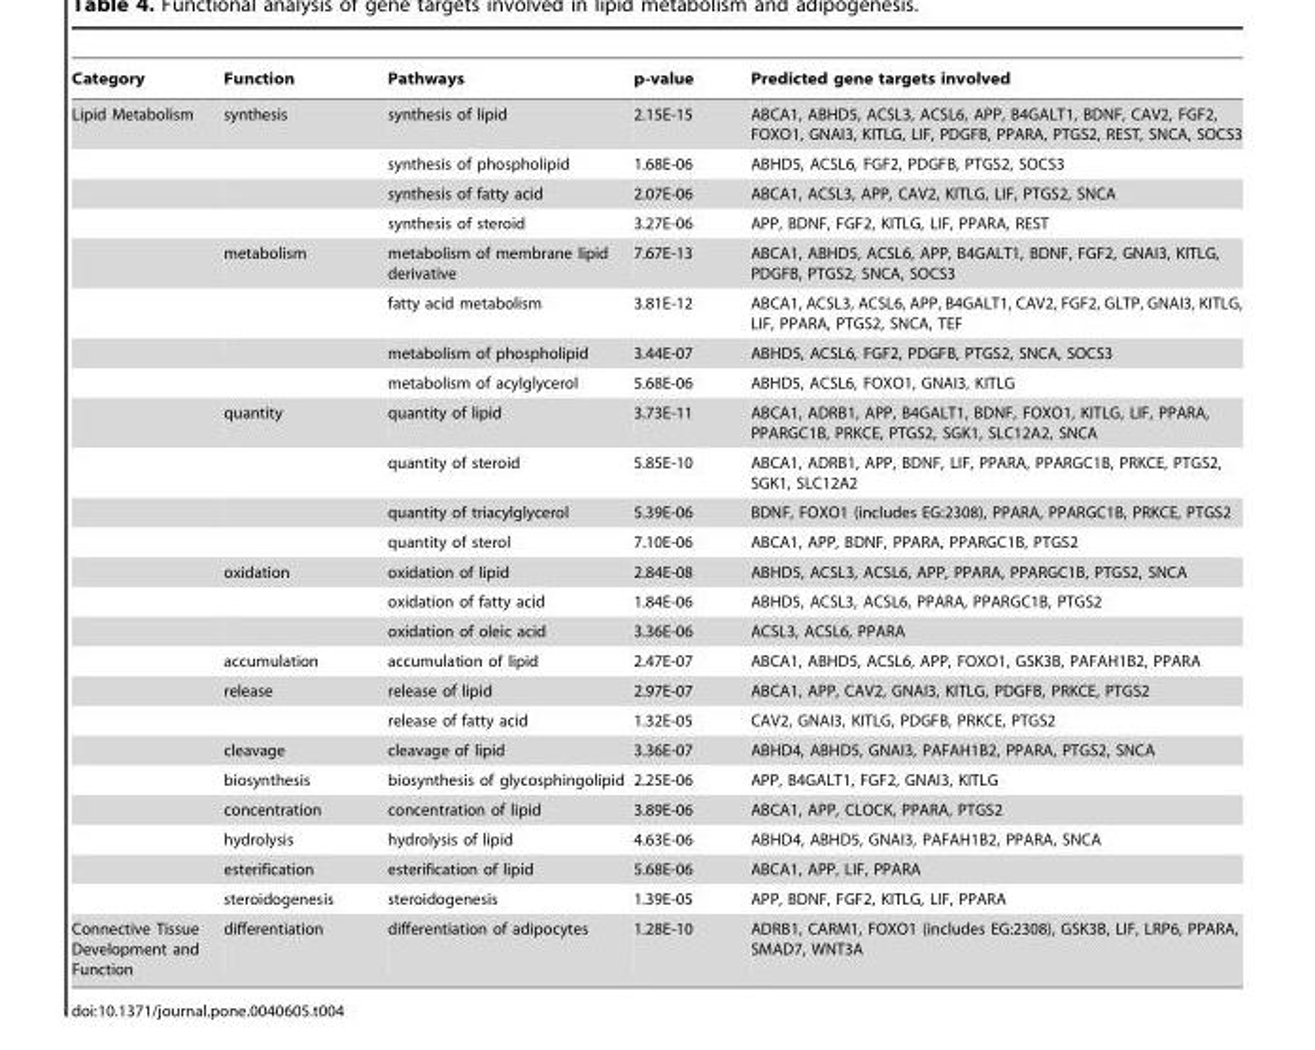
<table><thead><tr><td>Category</td><td>Function</td><td>Pathways</td><td>p-value</td><td>Predicted gene targets involved</td></tr></thead><tbody><tr><td rowspan="24">Lipid Metabolism</td><td>synthesis</td><td>synthesis of lipid</td><td>2.15E-15</td><td>ABCA1, ABHD5, ACSL3, ACSL6, APP, B4GALT1, BDNF, CAV2, FGF2, FOXO1, GNAI3, KITLG, LIF, PDGFB, PPARA, PTGS2, REST, SNCA, SOCS3</td></tr><tr><td></td><td>synthesis of phospholipid</td><td>1.68E-06</td><td>ABHD5, ACSL6, FGF2, PDGFB, PTGS2, SOCS3</td></tr><tr><td></td><td>synthesis of fatty acid</td><td>2.07E-06</td><td>ABCA1, ACSL3, APP, CAV2, KITLG, LIF, PTGS2, SNCA</td></tr><tr><td></td><td>synthesis of steroid</td><td>3.27E-06</td><td>APP, BDNF, FGF2, KITLG, LIF, PPARA, REST</td></tr><tr><td>metabolism</td><td>metabolism of membrane lipid derivative</td><td>7.67E-13</td><td>ABCA1, ABHD5, ACSL6, APP, B4GALT1, BDNF, FGF2, GNAI3, KITLG, PDGFB, PTGS2, SNCA, SOCS3</td></tr><tr><td></td><td>fatty acid metabolism</td><td>3.81E-12</td><td>ABCA1, ACSL3, ACSL6, APP, B4GALT1, CAV2, FGF2, GLTP, GNAI3, KITLG, LIF, PPARA, PTGS2, SNCA, TEF</td></tr><tr><td></td><td>metabolism of phospholipid</td><td>3.44E-07</td><td>ABHD5, ACSL6, FGF2, PDGFB, PTGS2, SNCA, SOCS3</td></tr><tr><td></td><td>metabolism of acylglycerol</td><td>5.68E-06</td><td>ABHD5, ACSL6, FOXO1, GNAI3, KITLG</td></tr><tr><td>quantity</td><td>quantity of lipid</td><td>3.73E-11</td><td>ABCA1, ADRB1, APP, B4GALT1, BDNF, FOXO1, KITLG, LIF, PPARA, PPARGC1B, PRKCE, PTGS2, SGK1, SLC12A2, SNCA</td></tr><tr><td></td><td>quantity of steroid</td><td>5.85E-10</td><td>ABCA1, ADRB1, APP, BDNF, LIF, PPARA, PPARGC1B, PRKCE, PTGS2, SGK1, SLC12A2</td></tr><tr><td></td><td>quantity of triacylglycerol</td><td>5.39E-06</td><td>BDNF, FOXO1 (includes EG:2308), PPARA, PPARGC1B, PRKCE, PTGS2</td></tr><tr><td></td><td>quantity of sterol</td><td>7.10E-06</td><td>ABCA1, APP, BDNF, PPARA, PPARGC1B, PTGS2</td></tr><tr><td>oxidation</td><td>oxidation of lipid</td><td>2.84E-08</td><td>ABHD5, ACSL3, ACSL6, APP, PPARA, PPARGC1B, PTGS2, SNCA</td></tr><tr><td></td><td>oxidation of fatty acid</td><td>1.84E-06</td><td>ABHD5, ACSL3, ACSL6, PPARA, PPARGC1B, PTGS2</td></tr><tr><td></td><td>oxidation of oleic acid</td><td>3.36E-06</td><td>ACSL3, ACSL6, PPARA</td></tr><tr><td>accumulation</td><td>accumulation of lipid</td><td>2.47E-07</td><td>ABCA1, ABHD5, ACSL6, APP, FOXO1, GSK3B, PAFAH1B2, PPARA</td></tr><tr><td>release</td><td>release of lipid</td><td>2.97E-07</td><td>ABCA1, APP, CAV2, GNAI3, KITLG, PDGFB, PRKCE, PTGS2</td></tr><tr><td></td><td>release of fatty acid</td><td>1.32E-05</td><td>CAV2, GNAI3, KITLG, PDGFB, PRKCE, PTGS2</td></tr><tr><td>cleavage</td><td>cleavage of lipid</td><td>3.36E-07</td><td>ABHD4, ABHD5, GNAI3, PAFAH1B2, PPARA, PTGS2, SNCA</td></tr><tr><td>biosynthesis</td><td>biosynthesis of glycosphingolipid</td><td>2.25E-06</td><td>APP, B4GALT1, FGF2, GNAI3, KITLG</td></tr><tr><td>concentration</td><td>concentration of lipid</td><td>3.89E-06</td><td>ABCA1, APP, CLOCK, PPARA, PTGS2</td></tr><tr><td>hydrolysis</td><td>hydrolysis of lipid</td><td>4.63E-06</td><td>ABHD4, ABHD5, GNAI3, PAFAH1B2, PPARA, SNCA</td></tr><tr><td>esterification</td><td>esterification of lipid</td><td>5.68E-06</td><td>ABCA1, APP, LIF, PPARA</td></tr><tr><td>steroidogenesis</td><td>steroidogenesis</td><td>1.39E-05</td><td>APP, BDNF, FGF2, KITLG, LIF, PPARA</td></tr><tr><td>Connective Tissue Development and Function</td><td>differentiation</td><td>differentiation of adipocytes</td><td>1.28E-10</td><td>ADRB1, CARM1, FOXO1 (includes EG:2308), GSK3B, LIF, LRP6, PPARA, SMAD7, WNT3A</td></tr></tbody></table>